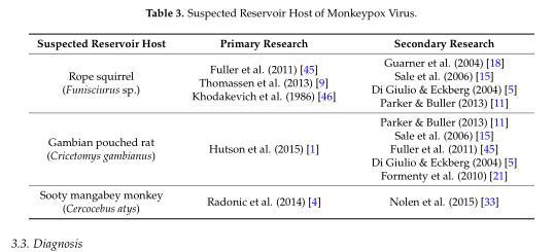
<table><thead><tr><td>Suspected Reservoir Host</td><td>Primary Research</td><td>Secondary Research</td></tr></thead><tbody><tr><td>Rope squirrel (Funisciurus sp.)</td><td>Fuller et al. (2011) [45] Thomassen et al. (2013) [9] Khodakevich et al. (1986) [46]</td><td>Guarner et al. (2004) [18] Sale et al. (2006) [15] Di Giulio &amp; Eckberg (2004) [5] Parker &amp; Buller (2013) [11]</td></tr><tr><td>Gambian pouched rat (Cricetomys gambianus)</td><td>Hutson et al. (2015) [1]</td><td>Parker &amp; Buller (2013) [11] Sale et al. (2006) [15] Fuller et al. (2011) [45] Di Giulio &amp; Eckberg (2004) [5] Formenty et al. (2010) [21]</td></tr><tr><td>Sooty mangabey monkey (Cercocebus atys)</td><td>Radonic et al. (2014) [4]</td><td>Nolen et al. (2015) [33]</td></tr></tbody></table>